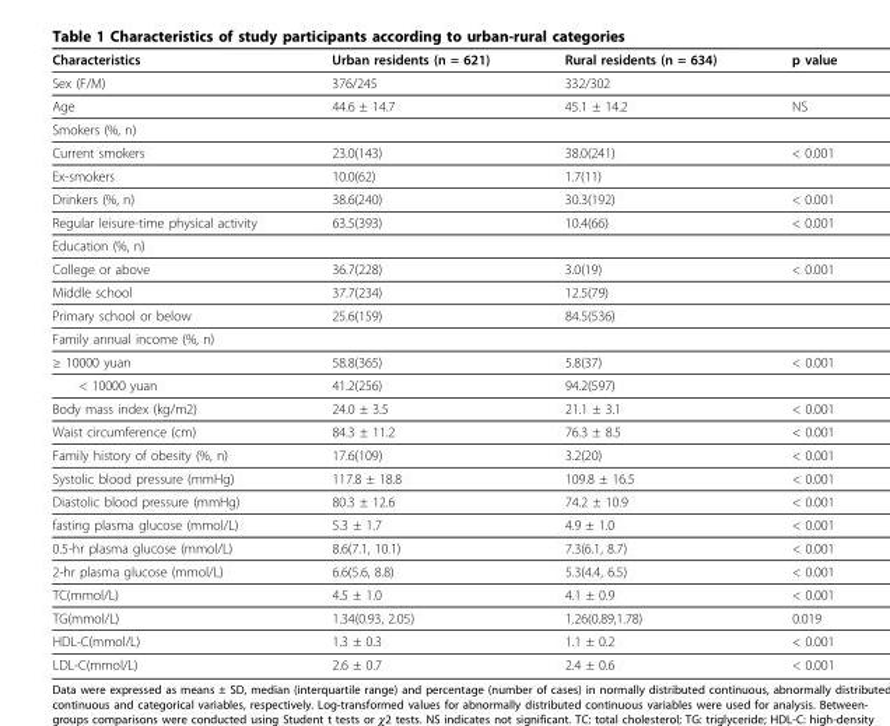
<table><thead><tr><td>Characteristics</td><td>Urban residents (n = 621)</td><td>Rural residents (n = 634)</td><td>p value</td></tr></thead><tbody><tr><td>Sex (F/M)</td><td>376/245</td><td>332/302</td><td></td></tr><tr><td>Age</td><td>44.6 ± 14.7</td><td>45.1 ± 14.2</td><td>NS</td></tr><tr><td colspan="4">Smokers (%, n)</td></tr><tr><td>Current smokers</td><td>23.0(143)</td><td>38.0(241)</td><td>&lt; 0.001</td></tr><tr><td>Ex-smokers</td><td>10.0(62)</td><td>1.7(11)</td><td></td></tr><tr><td>Drinkers (%, n)</td><td>38.6(240)</td><td>30.3(192)</td><td>&lt; 0.001</td></tr><tr><td>Regular leisure-time physical activity</td><td>63.5(393)</td><td>10.4(66)</td><td>&lt; 0.001</td></tr><tr><td colspan="4">Education (%, n)</td></tr><tr><td>College or above</td><td>36.7(228)</td><td>3.0(19)</td><td>&lt; 0.001</td></tr><tr><td>Middle school</td><td>37.7(234)</td><td>12.5(79)</td><td></td></tr><tr><td>Primary school or below</td><td>25.6(159)</td><td>84.5(536)</td><td></td></tr><tr><td colspan="4">Family annual income (%, n)</td></tr><tr><td>≥ 10000 yuan</td><td>58.8(365)</td><td>5.8(37)</td><td>&lt; 0.001</td></tr><tr><td>&lt; 10000 yuan</td><td>41.2(256)</td><td>94.2(597)</td><td></td></tr><tr><td>Body mass index (kg/m2)</td><td>24.0 ± 3.5</td><td>21.1 ± 3.1</td><td>&lt; 0.001</td></tr><tr><td>Waist circumference (cm)</td><td>84.3 ± 11.2</td><td>76.3 ± 8.5</td><td>&lt; 0.001</td></tr><tr><td>Family history of obesity (%, n)</td><td>17.6(109)</td><td>3.2(20)</td><td>&lt; 0.001</td></tr><tr><td>Systolic blood pressure (mmHg)</td><td>117.8 ± 18.8</td><td>109.8 ± 16.5</td><td>&lt; 0.001</td></tr><tr><td>Diastolic blood pressure (mmHg)</td><td>80.3 ± 12.6</td><td>74.2 ± 10.9</td><td>&lt; 0.001</td></tr><tr><td>fasting plasma glucose (mmol/L)</td><td>5.3 ± 1.7</td><td>4.9 ± 1.0</td><td>&lt; 0.001</td></tr><tr><td>0.5-hr plasma glucose (mmol/L)</td><td>8.6(7.1, 10.1)</td><td>7.3(6.1, 8.7)</td><td>&lt; 0.001</td></tr><tr><td>2-hr plasma glucose (mmol/L)</td><td>6.6(5.6, 8.8)</td><td>5.3(4.4, 6.5)</td><td>&lt; 0.001</td></tr><tr><td>TC(mmol/L)</td><td>4.5 ± 1.0</td><td>4.1 ± 0.9</td><td>&lt; 0.001</td></tr><tr><td>TG(mmol/L)</td><td>1.34(0.93, 2.05)</td><td>1.26(0.89,1.78)</td><td>0.019</td></tr><tr><td>HDL-C(mmol/L)</td><td>1.3 ± 0.3</td><td>1.1 ± 0.2</td><td>&lt; 0.001</td></tr><tr><td>LDL-C(mmol/L)</td><td>2.6 ± 0.7</td><td>2.4 ± 0.6</td><td>&lt; 0.001</td></tr></tbody></table>